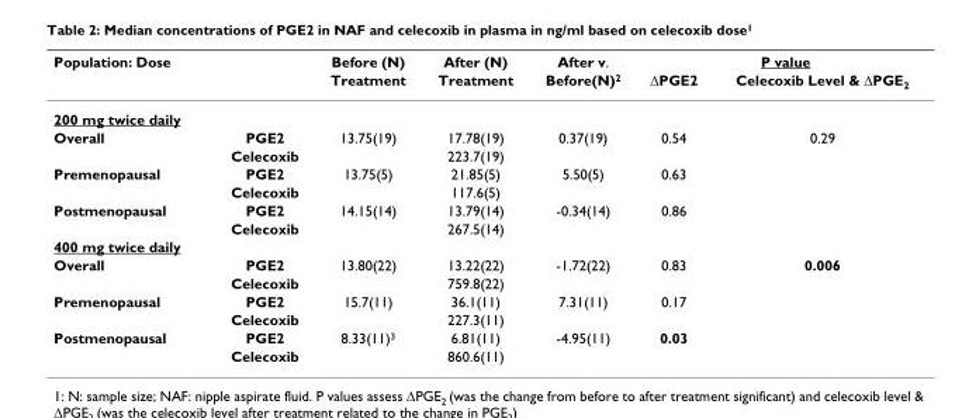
<table><thead><tr><td rowspan="2">Population: Dose</td><td rowspan="2"></td><td rowspan="2">Before (N) Treatment</td><td rowspan="2">After (N) Treatment</td><td rowspan="2">After v. Before(N)<sup>2</sup></td><td colspan="2">P value</td></tr><tr><td>ΔPGE2</td><td>Celecoxib Level &amp; ΔPGE<sub>2</sub></td></tr></thead><tbody><tr><td colspan="7">200 mg twice daily</td></tr><tr><td rowspan="2">Overall</td><td>PGE2</td><td>13.75(19)</td><td>17.78(19)</td><td>0.37(19)</td><td>0.54</td><td>0.29</td></tr><tr><td>Celecoxib</td><td></td><td>223.7(19)</td><td></td><td></td><td></td></tr><tr><td rowspan="2">Premenopausal</td><td>PGE2</td><td>13.75(5)</td><td>21.85(5)</td><td>5.50(5)</td><td>0.63</td><td></td></tr><tr><td>Celecoxib</td><td></td><td>117.6(5)</td><td></td><td></td><td></td></tr><tr><td rowspan="2">Postmenopausal</td><td>PGE2</td><td>14.15(14)</td><td>13.79(14)</td><td>-0.34(14)</td><td>0.86</td><td></td></tr><tr><td>Celecoxib</td><td></td><td>267.5(14)</td><td></td><td></td><td></td></tr><tr><td colspan="7">400 mg twice daily</td></tr><tr><td rowspan="2">Overall</td><td>PGE2</td><td>13.80(22)</td><td>13.22(22)</td><td>-1.72(22)</td><td>0.83</td><td>0.006</td></tr><tr><td>Celecoxib</td><td></td><td>759.8(22)</td><td></td><td></td><td></td></tr><tr><td rowspan="2">Premenopausal</td><td>PGE2</td><td>15.7(11)</td><td>36.1(11)</td><td>7.31(11)</td><td>0.17</td><td></td></tr><tr><td>Celecoxib</td><td></td><td>227.3(11)</td><td></td><td></td><td></td></tr><tr><td rowspan="2">Postmenopausal</td><td>PGE2</td><td>8.33(11)<sup>3</sup></td><td>6.81(11)</td><td>-4.95(11)</td><td>0.03</td><td></td></tr><tr><td>Celecoxib</td><td></td><td>860.6(11)</td><td></td><td></td><td></td></tr></tbody></table>